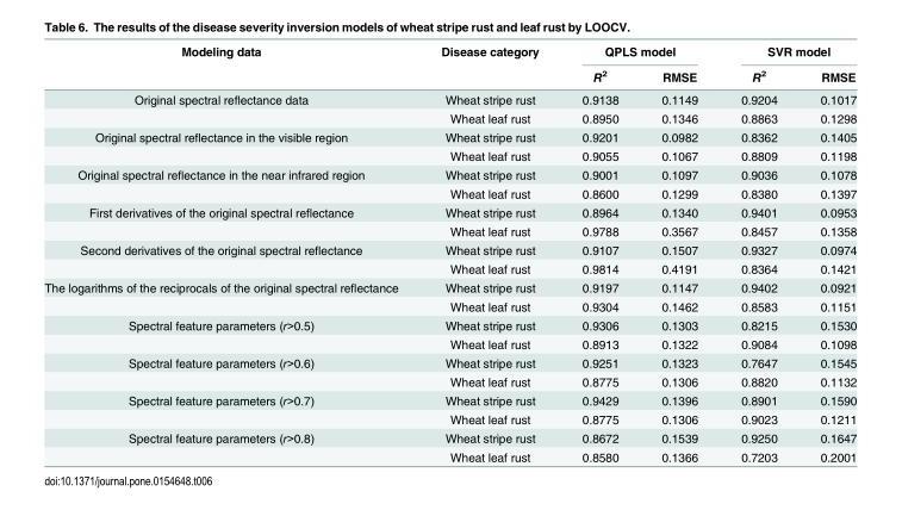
<table><thead><tr><td rowspan="2">Modeling data</td><td rowspan="2">Disease category</td><td colspan="2">QPLS model</td><td colspan="2">SVR model</td></tr><tr><td>R<sup>2</sup></td><td>RMSE</td><td>R<sup>2</sup></td><td>RMSE</td></tr></thead><tbody><tr><td rowspan="2">Original spectral reflectance data</td><td>Wheat stripe rust</td><td>0.9138</td><td>0.1149</td><td>0.9204</td><td>0.1017</td></tr><tr><td>Wheat leaf rust</td><td>0.8950</td><td>0.1346</td><td>0.8863</td><td>0.1298</td></tr><tr><td rowspan="2">Original spectral reflectance in the visible region</td><td>Wheat stripe rust</td><td>0.9201</td><td>0.0982</td><td>0.8362</td><td>0.1405</td></tr><tr><td>Wheat leaf rust</td><td>0.9055</td><td>0.1067</td><td>0.8809</td><td>0.1198</td></tr><tr><td rowspan="2">Original spectral reflectance in the near infrared region</td><td>Wheat stripe rust</td><td>0.9001</td><td>0.1097</td><td>0.9036</td><td>0.1078</td></tr><tr><td>Wheat leaf rust</td><td>0.8600</td><td>0.1299</td><td>0.8380</td><td>0.1397</td></tr><tr><td rowspan="2">First derivatives of the original spectral reflectance</td><td>Wheat stripe rust</td><td>0.8964</td><td>0.1340</td><td>0.9401</td><td>0.0953</td></tr><tr><td>Wheat leaf rust</td><td>0.9788</td><td>0.3567</td><td>0.8457</td><td>0.1358</td></tr><tr><td rowspan="2">Second derivatives of the original spectral reflectance</td><td>Wheat stripe rust</td><td>0.9107</td><td>0.1507</td><td>0.9327</td><td>0.0974</td></tr><tr><td>Wheat leaf rust</td><td>0.9814</td><td>0.4191</td><td>0.8364</td><td>0.1421</td></tr><tr><td rowspan="2">The logarithms of the reciprocals of the original spectral reflectance</td><td>Wheat stripe rust</td><td>0.9197</td><td>0.1147</td><td>0.9402</td><td>0.0921</td></tr><tr><td>Wheat leaf rust</td><td>0.9304</td><td>0.1462</td><td>0.8583</td><td>0.1151</td></tr><tr><td rowspan="2">Spectral feature parameters (r&gt;0.5)</td><td>Wheat stripe rust</td><td>0.9306</td><td>0.1303</td><td>0.8215</td><td>0.1530</td></tr><tr><td>Wheat leaf rust</td><td>0.8913</td><td>0.1322</td><td>0.9084</td><td>0.1098</td></tr><tr><td rowspan="2">Spectral feature parameters (r&gt;0.6)</td><td>Wheat stripe rust</td><td>0.9251</td><td>0.1323</td><td>0.7647</td><td>0.1545</td></tr><tr><td>Wheat leaf rust</td><td>0.8775</td><td>0.1306</td><td>0.8820</td><td>0.1132</td></tr><tr><td rowspan="2">Spectral feature parameters (r&gt;0.7)</td><td>Wheat stripe rust</td><td>0.9429</td><td>0.1396</td><td>0.8901</td><td>0.1590</td></tr><tr><td>Wheat leaf rust</td><td>0.8775</td><td>0.1306</td><td>0.9023</td><td>0.1211</td></tr><tr><td rowspan="2">Spectral feature parameters (r&gt;0.8)</td><td>Wheat stripe rust</td><td>0.8672</td><td>0.1539</td><td>0.9250</td><td>0.1647</td></tr><tr><td>Wheat leaf rust</td><td>0.8580</td><td>0.1366</td><td>0.7203</td><td>0.2001</td></tr></tbody></table>